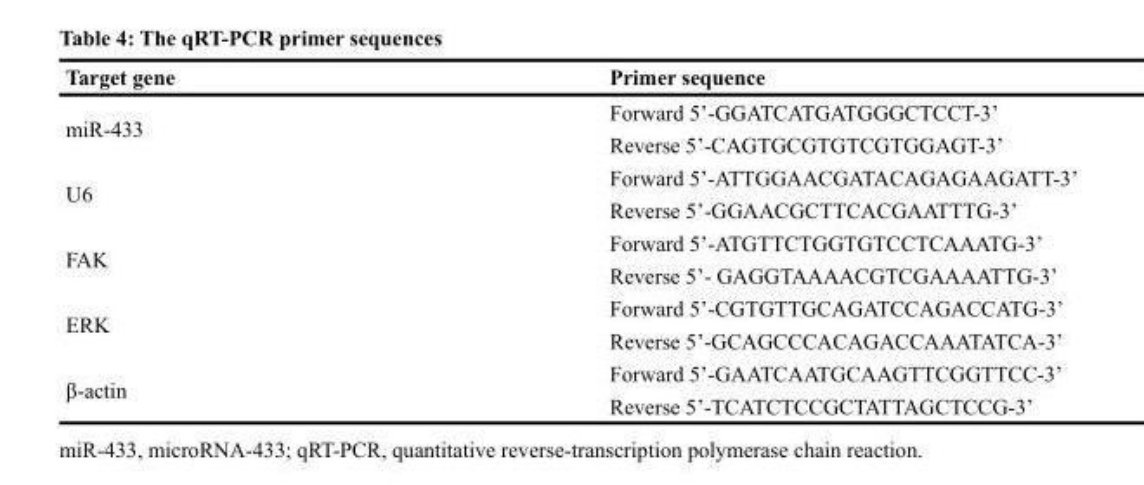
<table><thead><tr><td>Target gene</td><td>Primer sequence</td></tr></thead><tbody><tr><td rowspan="2">miR-433</td><td>Forward 5’-GGATCATGATGGGCTCCT-3’</td></tr><tr><td>Reverse 5’-CAGTGCGTGTCGTGGAGT-3’</td></tr><tr><td rowspan="2">U6</td><td>Forward 5’-ATTGGAACGATACAGAGAAGATT-3’</td></tr><tr><td>Reverse 5’-GGAACGCTTCACGAATTTG-3’</td></tr><tr><td rowspan="2">FAK</td><td>Forward 5’-ATGTTCTGGTGTCCTCAAATG-3’</td></tr><tr><td>Reverse 5’- GAGGTAAAACGTCGAAAATTG-3’</td></tr><tr><td rowspan="2">ERK</td><td>Forward 5’-CGTGTTGCAGATCCAGACCATG-3’</td></tr><tr><td>Reverse 5’-GCAGCCCACAGACCAAATATCA-3’</td></tr><tr><td rowspan="2">β-actin</td><td>Forward 5’-GAATCAATGCAAGTTCGGTTCC-3’</td></tr><tr><td>Reverse 5’-TCATCTCCGCTATTAGCTCCG-3’</td></tr></tbody></table>